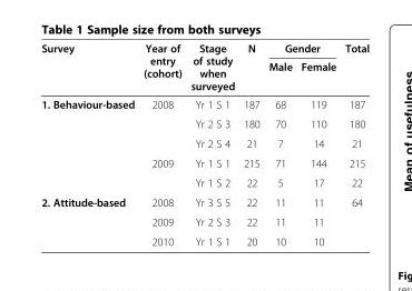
<table><thead><tr><td rowspan="2">Survey</td><td rowspan="2">Year of entry (cohort)</td><td rowspan="2">Stage of study when surveyed</td><td rowspan="2">N</td><td colspan="2">Gender</td><td rowspan="2">Total</td></tr><tr><td>Male</td><td>Female</td></tr></thead><tbody><tr><td rowspan="5">1. Behaviour-based</td><td rowspan="3">2008</td><td>Yr 1 S 1</td><td>187</td><td>68</td><td>119</td><td>187</td></tr><tr><td>Yr 2 S 3</td><td>180</td><td>70</td><td>110</td><td>180</td></tr><tr><td>Yr 2 S 4</td><td>21</td><td>7</td><td>14</td><td>21</td></tr><tr><td rowspan="2">2009</td><td>Yr 1 S 1</td><td>215</td><td>71</td><td>144</td><td>215</td></tr><tr><td>Yr 1 S 2</td><td>22</td><td>5</td><td>17</td><td>22</td></tr><tr><td rowspan="3">2. Attitude-based</td><td>2008</td><td>Yr 3 S 5</td><td>22</td><td>11</td><td>11</td><td rowspan="3">64</td></tr><tr><td>2009</td><td>Yr 2 S 3</td><td>22</td><td>11</td><td>11</td></tr><tr><td>2010</td><td>Yr 1 S 1</td><td>20</td><td>10</td><td>10</td></tr></tbody></table>